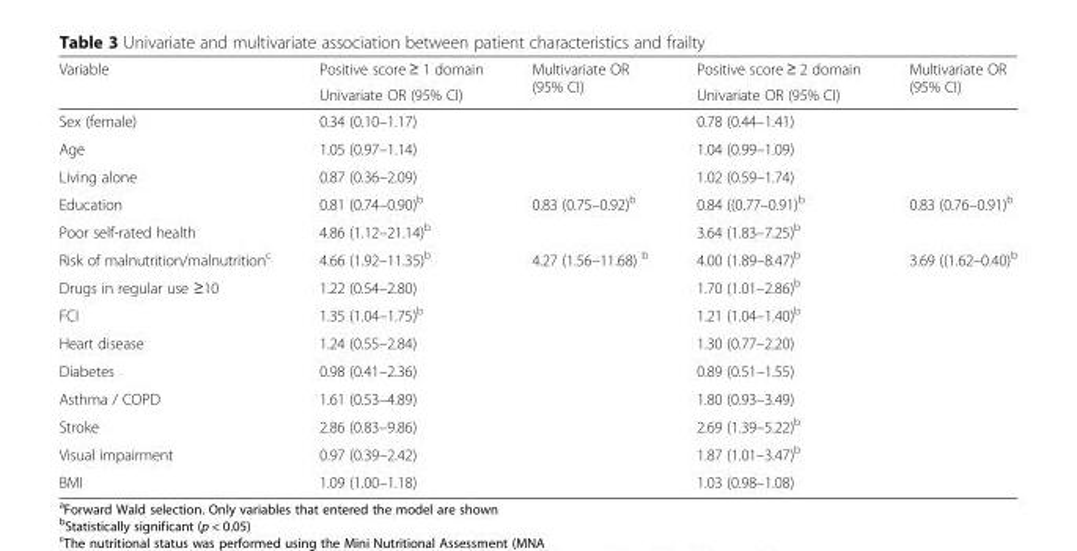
<table><thead><tr><td rowspan="2">Variable</td><td rowspan="2">Positive score ≥ 1 domain Univariate OR (95% CI)</td><td rowspan="2">Multivariate OR (95% CI)</td><td rowspan="2">Positive score ≥ 2 domain Univariate OR (95% CI)</td><td rowspan="2">Multivariate OR (95% CI)</td></tr><tr></tr></thead><tbody><tr><td>Sex (female)</td><td>0.34 (0.10–1.17)</td><td></td><td>0.78 (0.44–1.41)</td><td></td></tr><tr><td>Age</td><td>1.05 (0.97–1.14)</td><td></td><td>1.04 (0.99–1.09)</td><td></td></tr><tr><td>Living alone</td><td>0.87 (0.36–2.09)</td><td></td><td>1.02 (0.59–1.74)</td><td></td></tr><tr><td>Education</td><td>0.81 (0.74–0.90)<sup>b</sup></td><td>0.83 (0.75–0.92)<sup>b</sup></td><td>0.84 ((0.77–0.91)<sup>b</sup></td><td>0.83 (0.76–0.91)<sup>b</sup></td></tr><tr><td>Poor self-rated health</td><td>4.86 (1.12–21.14)<sup>b</sup></td><td></td><td>3.64 (1.83–7.25)<sup>b</sup></td><td></td></tr><tr><td>Risk of malnutrition/malnutrition<sup>c</sup></td><td>4.66 (1.92–11.35)<sup>b</sup></td><td>4.27 (1.56–11.68) <sup>b</sup></td><td>4.00 (1.89–8.47)<sup>b</sup></td><td>3.69 ((1.62–0.40)<sup>b</sup></td></tr><tr><td>Drugs in regular use ≥10</td><td>1.22 (0.54–2.80)</td><td></td><td>1.70 (1.01–2.86)<sup>b</sup></td><td></td></tr><tr><td>FCI</td><td>1.35 (1.04–1.75)<sup>b</sup></td><td></td><td>1.21 (1.04–1.40)<sup>b</sup></td><td></td></tr><tr><td>Heart disease</td><td>1.24 (0.55–2.84)</td><td></td><td>1.30 (0.77–2.20)</td><td></td></tr><tr><td>Diabetes</td><td>0.98 (0.41–2.36)</td><td></td><td>0.89 (0.51–1.55)</td><td></td></tr><tr><td>Asthma / COPD</td><td>1.61 (0.53–4.89)</td><td></td><td>1.80 (0.93–3.49)</td><td></td></tr><tr><td>Stroke</td><td>2.86 (0.83–9.86)</td><td></td><td>2.69 (1.39–5.22)<sup>b</sup></td><td></td></tr><tr><td>Visual impairment</td><td>0.97 (0.39–2.42)</td><td></td><td>1.87 (1.01–3.47)<sup>b</sup></td><td></td></tr><tr><td>BMI</td><td>1.09 (1.00–1.18)</td><td></td><td>1.03 (0.98–1.08)</td><td></td></tr></tbody></table>